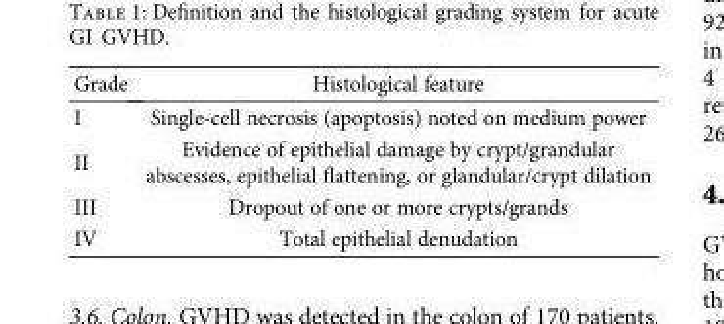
<table><thead><tr><td>Grade</td><td>Histological feature</td></tr></thead><tbody><tr><td>I</td><td>Single-cell necrosis (apoptosis) noted on medium power</td></tr><tr><td>II</td><td>Evidence of epithelial damage by crypt/grandular abscesses, epithelial flattening, or glandular/crypt dilation</td></tr><tr><td>III</td><td>Dropout of one or more crypts/grands</td></tr><tr><td>IV</td><td>Total epithelial denudation</td></tr></tbody></table>